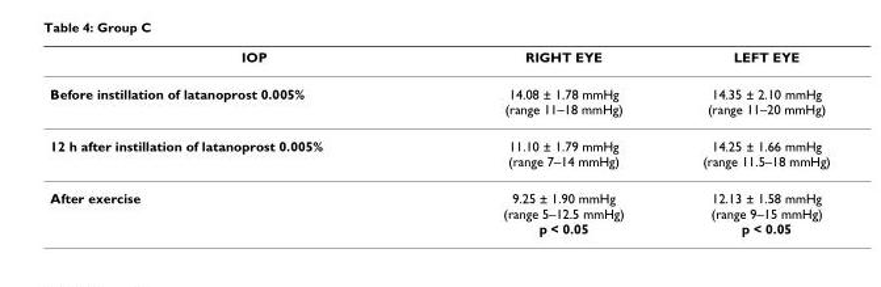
<table><thead><tr><td>IOP</td><td>RIGHT EYE</td><td>LEFT EYE</td></tr></thead><tbody><tr><td>Before instillation of latanoprost 0.005%</td><td>14.08 ± 1.78 mmHg (range 11–18 mmHg)</td><td>14.35 ± 2.10 mmHg (range 11–20 mmHg)</td></tr><tr><td>12 h after instillation of latanoprost 0.005%</td><td>11.10 ± 1.79 mmHg (range 7–14 mmHg)</td><td>14.25 ± 1.66 mmHg (range 11.5–18 mmHg)</td></tr><tr><td>After exercise</td><td>9.25 ± 1.90 mmHg (range 5–12.5 mmHg) p &lt; 0.05</td><td>12.13 ± 1.58 mmHg (range 9–15 mmHg) p &lt; 0.05</td></tr></tbody></table>